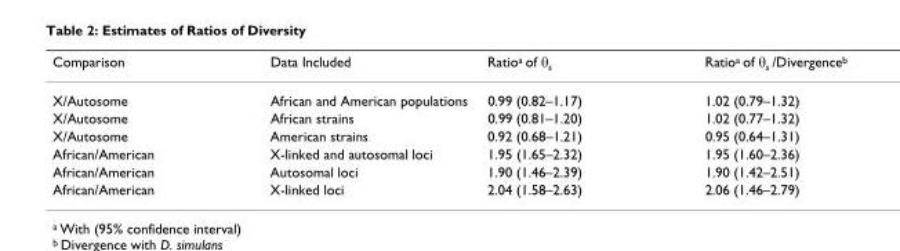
<table><thead><tr><td>Comparison</td><td>Data Included</td><td>Ratio<sup>a</sup> of θ<sub>s</sub></td><td>Ratio<sup>a</sup> of θ<sub>s</sub> /Divergence<sup>b</sup></td></tr></thead><tbody><tr><td>X/Autosome</td><td>African and American populations</td><td>0.99 (0.82–1.17)</td><td>1.02 (0.79–1.32)</td></tr><tr><td>X/Autosome</td><td>African strains</td><td>0.99 (0.81–1.20)</td><td>1.02 (0.77–1.32)</td></tr><tr><td>X/Autosome</td><td>American strains</td><td>0.92 (0.68–1.21)</td><td>0.95 (0.64–1.31)</td></tr><tr><td>African/American</td><td>X-linked and autosomal loci</td><td>1.95 (1.65–2.32)</td><td>1.95 (1.60–2.36)</td></tr><tr><td>African/American</td><td>Autosomal loci</td><td>1.90 (1.46–2.39)</td><td>1.90 (1.42–2.51)</td></tr><tr><td>African/American</td><td>X-linked loci</td><td>2.04 (1.58–2.63)</td><td>2.06 (1.46–2.79)</td></tr></tbody></table>